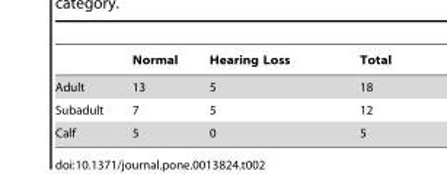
<table><thead><tr><td></td><td>Normal</td><td>Hearing Loss</td><td>Total</td></tr></thead><tbody><tr><td>Adult</td><td>13</td><td>5</td><td>18</td></tr><tr><td>Subadult</td><td>7</td><td>5</td><td>12</td></tr><tr><td>Calf</td><td>5</td><td>0</td><td>5</td></tr></tbody></table>